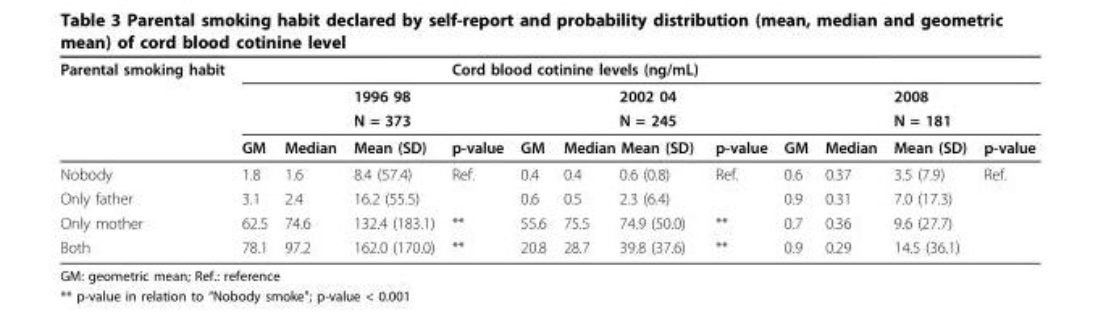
<table><thead><tr><td rowspan="4">Parental smoking habit</td><td rowspan="4">GM</td><td rowspan="4">Median</td><td rowspan="4">1996 98 N = 373 Mean (SD)</td><td colspan="5">Cord blood cotinine levels (ng/mL)</td><td rowspan="4">GM</td><td rowspan="4">Median</td><td rowspan="4">2008 N = 181 Mean (SD)</td><td rowspan="4">p-value</td></tr><tr><td rowspan="3">p-value</td><td rowspan="3">GM</td><td rowspan="2"></td><td rowspan="2">2002 04 N = 245</td><td rowspan="3">p-value</td></tr><tr></tr><tr><td colspan="2">Median Mean (SD)</td></tr></thead><tbody><tr><td>Nobody</td><td>1.8</td><td>1.6</td><td>8.4 (57.4)</td><td>Ref.</td><td>0.4</td><td>0.4</td><td>0.6 (0.8)</td><td>Ref.</td><td>0.6</td><td>0.37</td><td>3.5 (7.9)</td><td>Ref.</td></tr><tr><td>Only father</td><td>3.1</td><td>2.4</td><td>16.2 (55.5)</td><td></td><td>0.6</td><td>0.5</td><td>2.3 (6.4)</td><td></td><td>0.9</td><td>0.31</td><td>7.0 (17.3)</td><td></td></tr><tr><td>Only mother</td><td>62.5</td><td>74.6</td><td>132.4 (183.1)</td><td>**</td><td>55.6</td><td>75.5</td><td>74.9 (50.0)</td><td>**</td><td>0.7</td><td>0.36</td><td>9.6 (27.7)</td><td></td></tr><tr><td>Both</td><td>78.1</td><td>97.2</td><td>162.0 (170.0)</td><td>**</td><td>20.8</td><td>28.7</td><td>39.8 (37.6)</td><td>**</td><td>0.9</td><td>0.29</td><td>14.5 (36.1)</td><td></td></tr></tbody></table>